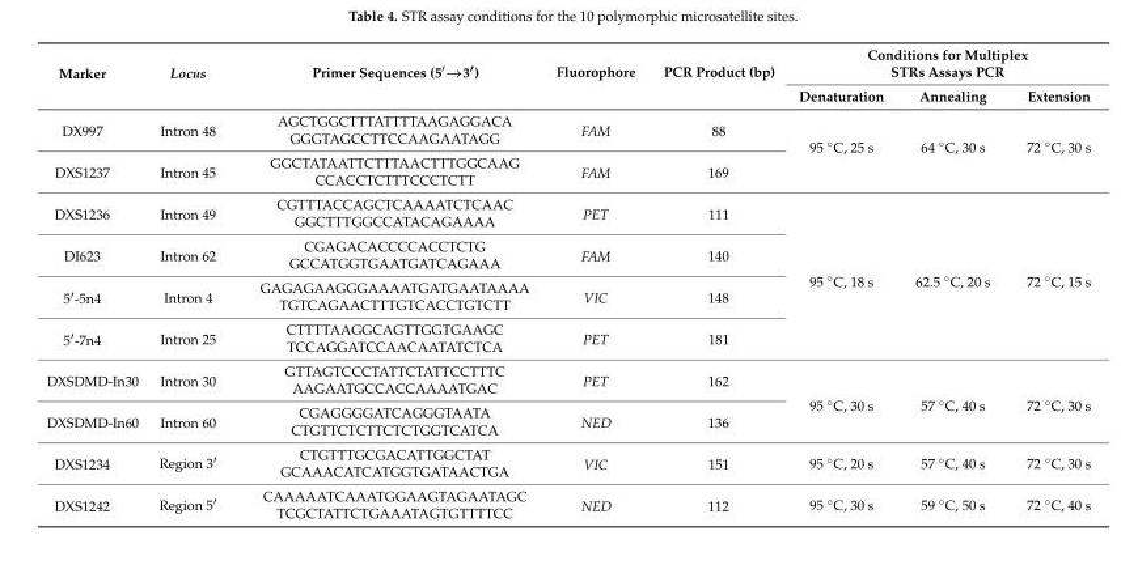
<table><thead><tr><td rowspan="2">Marker</td><td rowspan="2">Locus</td><td rowspan="2">Primer Sequences (5′→3′)</td><td rowspan="2">Fluorophore</td><td rowspan="2">PCR Product (bp)</td><td colspan="3">Conditions for Multiplex STRs Assays PCR</td></tr><tr><td>Denaturation</td><td>Annealing</td><td>Extension</td></tr></thead><tbody><tr><td rowspan="2">DX997</td><td rowspan="2">Intron 48</td><td>AGCTGGCTTTATTTTAAGAGGACA</td><td rowspan="2">FAM</td><td rowspan="2">88</td><td rowspan="4">95 ◦C, 25 s</td><td rowspan="4">64 ◦C, 30 s</td><td rowspan="4">72 ◦C, 30 s</td></tr><tr><td>GGGTAGCCTTCCAAGAATAGG</td></tr><tr><td rowspan="2">DXS1237</td><td rowspan="2">Intron 45</td><td>GGCTATAATTCTTTAACTTTGGCAAG</td><td rowspan="2">FAM</td><td rowspan="2">169</td></tr><tr><td>CCACCTCTTTCCCTCTT</td></tr><tr><td rowspan="2">DXS1236</td><td rowspan="2">Intron 49</td><td>CGTTTACCAGCTCAAAATCTCAAC</td><td rowspan="2">PET</td><td rowspan="2">111</td><td rowspan="8">95 ◦C, 18 s</td><td rowspan="8">62.5 ◦C, 20 s</td><td rowspan="8">72 ◦C, 15 s</td></tr><tr><td>GGCTTTGGCCATACAGAAAA</td></tr><tr><td rowspan="2">DI623</td><td rowspan="2">Intron 62</td><td>CGAGACACCCCACCTCTG</td><td rowspan="2">FAM</td><td rowspan="2">140</td></tr><tr><td>GCCATGGTGAATGATCAGAAA</td></tr><tr><td rowspan="2">5′-5n4</td><td rowspan="2">Intron 4</td><td>GAGAGAAGGGAAAATGATGAATAAAA</td><td rowspan="2">VIC</td><td rowspan="2">148</td></tr><tr><td>TGTCAGAACTTTGTCACCTGTCTT</td></tr><tr><td rowspan="2">5′-7n4</td><td rowspan="2">Intron 25</td><td>CTTTTAAGGCAGTTGGTGAAGC</td><td rowspan="2">PET</td><td rowspan="2">181</td></tr><tr><td>TCCAGGATCCAACAATATCTCA</td></tr><tr><td rowspan="2">DXSDMD-In30</td><td rowspan="2">Intron 30</td><td>GTTAGTCCCTATTCTATTCCTTTC</td><td rowspan="2">PET</td><td rowspan="2">162</td><td rowspan="4">95 ◦C, 30 s</td><td rowspan="4">57 ◦C, 40 s</td><td rowspan="4">72 ◦C, 30 s</td></tr><tr><td>AAGAATGCCACCAAAATGAC</td></tr><tr><td rowspan="2">DXSDMD-In60</td><td rowspan="2">Intron 60</td><td>CGAGGGGATCAGGGTAATA</td><td rowspan="2">NED</td><td rowspan="2">136</td></tr><tr><td>CTGTTCTCTTCTCTGGTCATCA</td></tr><tr><td rowspan="2">DXS1234</td><td rowspan="2">Region 3′</td><td>CTGTTTGCGACATTGGCTAT</td><td rowspan="2">VIC</td><td rowspan="2">151</td><td rowspan="2">95 ◦C, 20 s</td><td rowspan="2">57 ◦C, 40 s</td><td rowspan="2">72 ◦C, 30 s</td></tr><tr><td>GCAAACATCATGGTGATAACTGA</td></tr><tr><td rowspan="2">DXS1242</td><td rowspan="2">Region 5′</td><td>CAAAAATCAAATGGAAGTAGAATAGC</td><td rowspan="2">NED</td><td rowspan="2">112</td><td rowspan="2">95 ◦C, 30 s</td><td rowspan="2">59 ◦C, 50 s</td><td rowspan="2">72 ◦C, 40 s</td></tr><tr><td>TCGCTATTCTGAAATAGTGTTTTCC</td></tr></tbody></table>